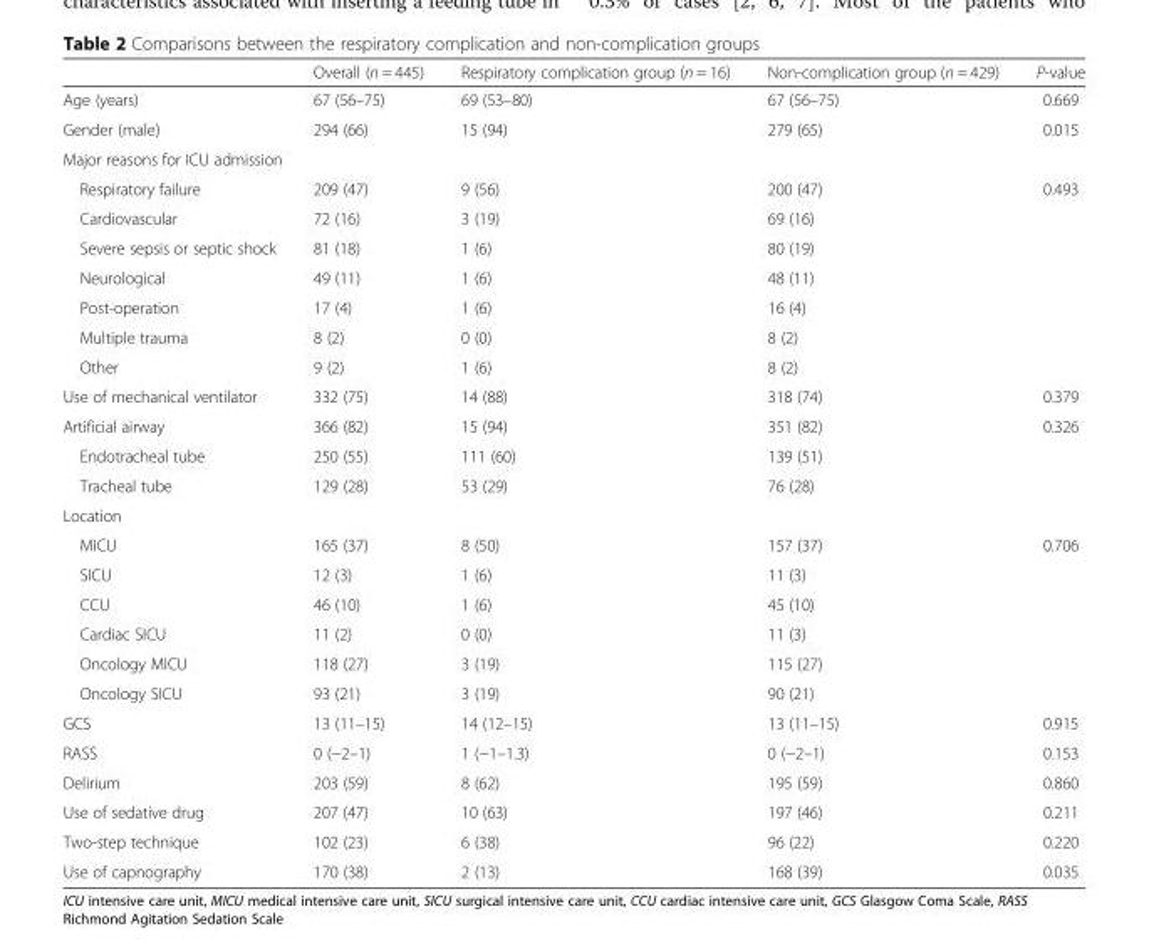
<table><thead><tr><td></td><td>Overall (n = 445)</td><td>Respiratory complication group (n = 16)</td><td>Non-complication group (n = 429)</td><td>P-value</td></tr></thead><tbody><tr><td>Age (years)</td><td>67 (56–75)</td><td>69 (53–80)</td><td>67 (56–75)</td><td>0.669</td></tr><tr><td>Gender (male)</td><td>294 (66)</td><td>15 (94)</td><td>279 (65)</td><td>0.015</td></tr><tr><td colspan="5">Major reasons for ICU admission</td></tr><tr><td>Respiratory failure</td><td>209 (47)</td><td>9 (56)</td><td>200 (47)</td><td rowspan="7">0.493</td></tr><tr><td>Cardiovascular</td><td>72 (16)</td><td>3 (19)</td><td>69 (16)</td></tr><tr><td>Severe sepsis or septic shock</td><td>81 (18)</td><td>1 (6)</td><td>80 (19)</td></tr><tr><td>Neurological</td><td>49 (11)</td><td>1 (6)</td><td>48 (11)</td></tr><tr><td>Post-operation</td><td>17 (4)</td><td>1 (6)</td><td>16 (4)</td></tr><tr><td>Multiple trauma</td><td>8 (2)</td><td>0 (0)</td><td>8 (2)</td></tr><tr><td>Other</td><td>9 (2)</td><td>1 (6)</td><td>8 (2)</td></tr><tr><td>Use of mechanical ventilator</td><td>332 (75)</td><td>14 (88)</td><td>318 (74)</td><td>0.379</td></tr><tr><td>Artificial airway</td><td>366 (82)</td><td>15 (94)</td><td>351 (82)</td><td rowspan="3">0.326</td></tr><tr><td>Endotracheal tube</td><td>250 (55)</td><td>111 (60)</td><td>139 (51)</td></tr><tr><td>Tracheal tube</td><td>129 (28)</td><td>53 (29)</td><td>76 (28)</td></tr><tr><td colspan="5">Location</td></tr><tr><td>MICU</td><td>165 (37)</td><td>8 (50)</td><td>157 (37)</td><td rowspan="6">0.706</td></tr><tr><td>SICU</td><td>12 (3)</td><td>1 (6)</td><td>11 (3)</td></tr><tr><td>CCU</td><td>46 (10)</td><td>1 (6)</td><td>45 (10)</td></tr><tr><td>Cardiac SICU</td><td>11 (2)</td><td>0 (0)</td><td>11 (3)</td></tr><tr><td>Oncology MICU</td><td>118 (27)</td><td>3 (19)</td><td>115 (27)</td></tr><tr><td>Oncology SICU</td><td>93 (21)</td><td>3 (19)</td><td>90 (21)</td></tr><tr><td>GCS</td><td>13 (11–15)</td><td>14 (12–15)</td><td>13 (11–15)</td><td>0.915</td></tr><tr><td>RASS</td><td>0 (−2–1)</td><td>1 (−1–1.3)</td><td>0 (−2–1)</td><td>0.153</td></tr><tr><td>Delirium</td><td>203 (59)</td><td>8 (62)</td><td>195 (59)</td><td>0.860</td></tr><tr><td>Use of sedative drug</td><td>207 (47)</td><td>10 (63)</td><td>197 (46)</td><td>0.211</td></tr><tr><td>Two-step technique</td><td>102 (23)</td><td>6 (38)</td><td>96 (22)</td><td>0.220</td></tr><tr><td>Use of capnography</td><td>170 (38)</td><td>2 (13)</td><td>168 (39)</td><td>0.035</td></tr></tbody></table>